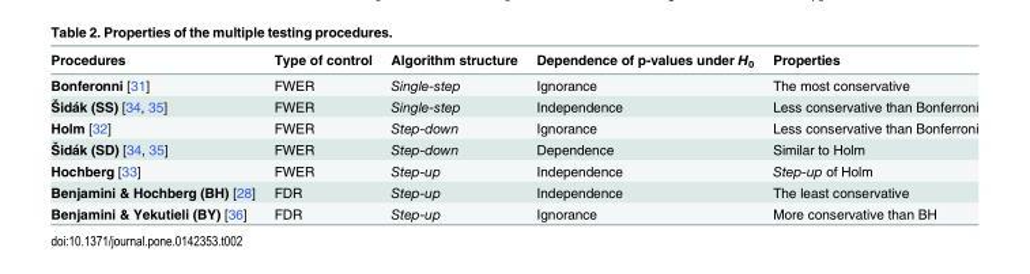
<table><thead><tr><td>Procedures</td><td>Type of control</td><td>Algorithm structure</td><td>Dependence of p-values under H<sub>0</sub></td><td>Properties</td></tr></thead><tbody><tr><td>Bonferonni [31]</td><td>FWER</td><td>Single-step</td><td>Ignorance</td><td>The most conservative</td></tr><tr><td>Šidák (SS) [34, 35]</td><td>FWER</td><td>Single-step</td><td>Independence</td><td>Less conservative than Bonferroni</td></tr><tr><td>Holm [32]</td><td>FWER</td><td>Step-down</td><td>Ignorance</td><td>Less conservative than Bonferroni</td></tr><tr><td>Šidák (SD) [34, 35]</td><td>FWER</td><td>Step-down</td><td>Dependence</td><td>Similar to Holm</td></tr><tr><td>Hochberg [33]</td><td>FWER</td><td>Step-up</td><td>Independence</td><td>Step-up of Holm</td></tr><tr><td>Benjamini &amp; Hochberg (BH) [28]</td><td>FDR</td><td>Step-up</td><td>Independence</td><td>The least conservative</td></tr><tr><td>Benjamini &amp; Yekutieli (BY) [36]</td><td>FDR</td><td>Step-up</td><td>Ignorance</td><td>More conservative than BH</td></tr></tbody></table>